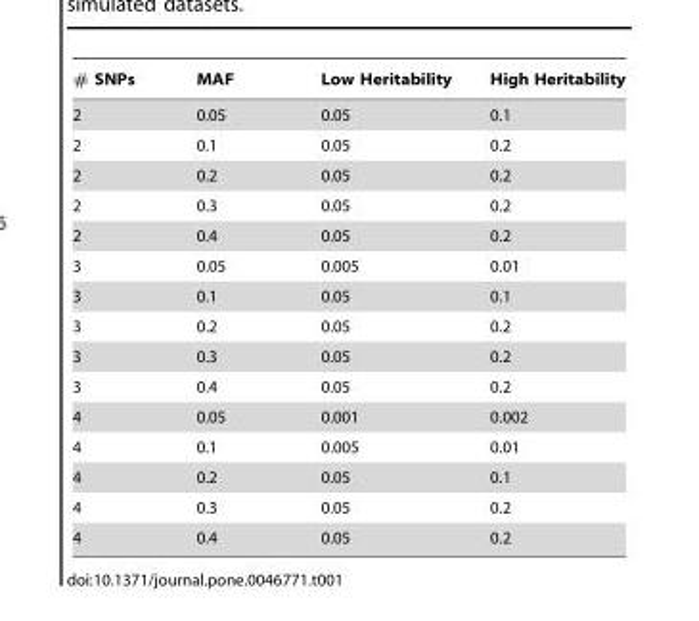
<table><thead><tr><td># SNPs</td><td>MAF</td><td>Low Heritability</td><td>High Heritability</td></tr></thead><tbody><tr><td>2</td><td>0.05</td><td>0.05</td><td>0.1</td></tr><tr><td>2</td><td>0.1</td><td>0.05</td><td>0.2</td></tr><tr><td>2</td><td>0.2</td><td>0.05</td><td>0.2</td></tr><tr><td>2</td><td>0.3</td><td>0.05</td><td>0.2</td></tr><tr><td>2</td><td>0.4</td><td>0.05</td><td>0.2</td></tr><tr><td>3</td><td>0.05</td><td>0.005</td><td>0.01</td></tr><tr><td>3</td><td>0.1</td><td>0.05</td><td>0.1</td></tr><tr><td>3</td><td>0.2</td><td>0.05</td><td>0.2</td></tr><tr><td>3</td><td>0.3</td><td>0.05</td><td>0.2</td></tr><tr><td>3</td><td>0.4</td><td>0.05</td><td>0.2</td></tr><tr><td>4</td><td>0.05</td><td>0.001</td><td>0.002</td></tr><tr><td>4</td><td>0.1</td><td>0.005</td><td>0.01</td></tr><tr><td>4</td><td>0.2</td><td>0.05</td><td>0.1</td></tr><tr><td>4</td><td>0.3</td><td>0.05</td><td>0.2</td></tr><tr><td>4</td><td>0.4</td><td>0.05</td><td>0.2</td></tr></tbody></table>